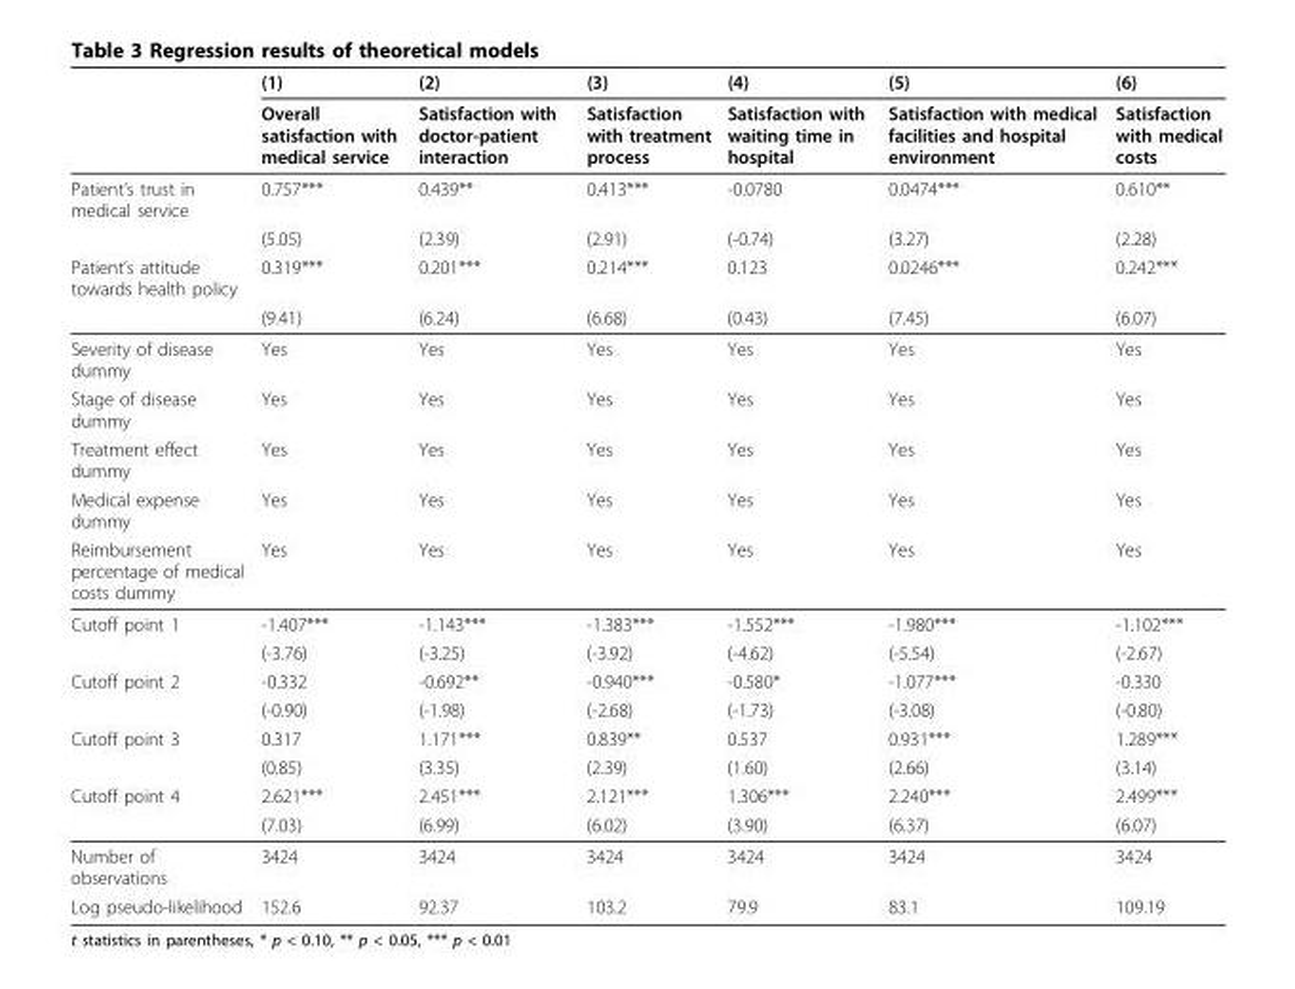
<table><thead><tr><td rowspan="2"></td><td rowspan="2">(1) Overall satisfaction with medical service</td><td rowspan="2">(2) Satisfaction with doctor-patient interaction</td><td rowspan="2">(3) Satisfaction with treatment process</td><td rowspan="2">(4) Satisfaction with waiting time in hospital</td><td rowspan="2">(5) Satisfaction with medical facilities and hospital environment</td><td rowspan="2">(6) Satisfaction with medical costs</td></tr><tr></tr></thead><tbody><tr><td rowspan="2">Patient’s trust in medical service</td><td>0.757***</td><td>0.439**</td><td>0.413***</td><td>-0.0780</td><td>0.0474***</td><td>0.610**</td></tr><tr><td>(5.05)</td><td>(2.39)</td><td>(2.91)</td><td>(-0.74)</td><td>(3.27)</td><td>(2.28)</td></tr><tr><td rowspan="2">Patient’s attitude towards health policy</td><td>0.319***</td><td>0.201***</td><td>0.214***</td><td>0.123</td><td>0.0246***</td><td>0.242***</td></tr><tr><td>(9.41)</td><td>(6.24)</td><td>(6.68)</td><td>(0.43)</td><td>(7.45)</td><td>(6.07)</td></tr><tr><td>Severity of disease dummy</td><td>Yes</td><td>Yes</td><td>Yes</td><td>Yes</td><td>Yes</td><td>Yes</td></tr><tr><td>Stage of disease dummy</td><td>Yes</td><td>Yes</td><td>Yes</td><td>Yes</td><td>Yes</td><td>Yes</td></tr><tr><td>Treatment effect dummy</td><td>Yes</td><td>Yes</td><td>Yes</td><td>Yes</td><td>Yes</td><td>Yes</td></tr><tr><td>Medical expense dummy</td><td>Yes</td><td>Yes</td><td>Yes</td><td>Yes</td><td>Yes</td><td>Yes</td></tr><tr><td>Reimbursement percentage of medical costs dummy</td><td>Yes</td><td>Yes</td><td>Yes</td><td>Yes</td><td>Yes</td><td>Yes</td></tr><tr><td rowspan="2">Cutoff point 1</td><td>-1.407***</td><td>-1.143***</td><td>-1.383***</td><td>-1.552***</td><td>-1.980***</td><td>-1.102***</td></tr><tr><td>(-3.76)</td><td>(-3.25)</td><td>(-3.92)</td><td>(-4.62)</td><td>(-5.54)</td><td>(-2.67)</td></tr><tr><td rowspan="2">Cutoff point 2</td><td>-0.332</td><td>-0.692**</td><td>-0.940***</td><td>-0.580*</td><td>-1.077***</td><td>-0.330</td></tr><tr><td>(-0.90)</td><td>(-1.98)</td><td>(-2.68)</td><td>(-1.73)</td><td>(-3.08)</td><td>(-0.80)</td></tr><tr><td rowspan="2">Cutoff point 3</td><td>0.317</td><td>1.171***</td><td>0.839**</td><td>0.537</td><td>0.931***</td><td>1.289***</td></tr><tr><td>(0.85)</td><td>(3.35)</td><td>(2.39)</td><td>(1.60)</td><td>(2.66)</td><td>(3.14)</td></tr><tr><td rowspan="2">Cutoff point 4</td><td>2.621***</td><td>2.451***</td><td>2.121***</td><td>1.306***</td><td>2.240***</td><td>2.499***</td></tr><tr><td>(7.03)</td><td>(6.99)</td><td>(6.02)</td><td>(3.90)</td><td>(6.37)</td><td>(6.07)</td></tr><tr><td>Number of observations</td><td>3424</td><td>3424</td><td>3424</td><td>3424</td><td>3424</td><td>3424</td></tr><tr><td>Log pseudo-likelihood</td><td>152.6</td><td>92.37</td><td>103.2</td><td>79.9</td><td>83.1</td><td>109.19</td></tr></tbody></table>